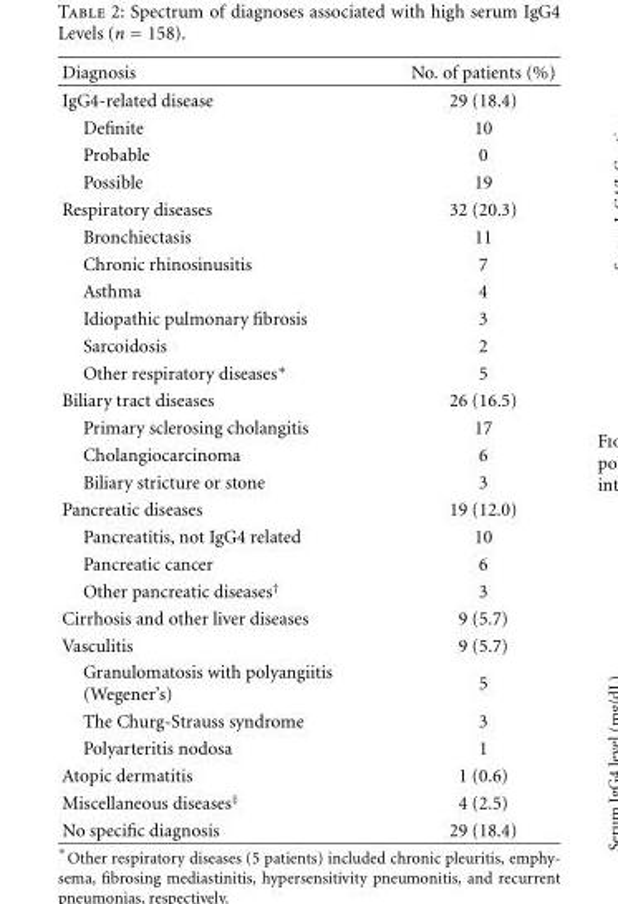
<table><thead><tr><td>Diagnosis</td><td>No. of patients (%)</td></tr></thead><tbody><tr><td>IgG4-related disease</td><td>29 (18.4)</td></tr><tr><td>Definite</td><td>10</td></tr><tr><td>Probable</td><td>0</td></tr><tr><td>Possible</td><td>19</td></tr><tr><td>Respiratory diseases</td><td>32 (20.3)</td></tr><tr><td>Bronchiectasis</td><td>11</td></tr><tr><td>Chronic rhinosinusitis</td><td>7</td></tr><tr><td>Asthma</td><td>4</td></tr><tr><td>Idiopathic pulmonary fibrosis</td><td>3</td></tr><tr><td>Sarcoidosis</td><td>2</td></tr><tr><td>Other respiratory diseases∗</td><td>5</td></tr><tr><td>Biliary tract diseases</td><td>26 (16.5)</td></tr><tr><td>Primary sclerosing cholangitis</td><td>17</td></tr><tr><td>Cholangiocarcinoma</td><td>6</td></tr><tr><td>Biliary stricture or stone</td><td>3</td></tr><tr><td>Pancreatic diseases</td><td>19 (12.0)</td></tr><tr><td>Pancreatitis, not IgG4 related</td><td>10</td></tr><tr><td>Pancreatic cancer</td><td>6</td></tr><tr><td>Other pancreatic diseases<sup>†</sup></td><td>3</td></tr><tr><td>Cirrhosis and other liver diseases</td><td>9 (5.7)</td></tr><tr><td>Vasculitis</td><td>9 (5.7)</td></tr><tr><td>Granulomatosis with polyangiitis (Wegener’s)</td><td>5</td></tr><tr><td>The Churg-Strauss syndrome</td><td>3</td></tr><tr><td>Polyarteritis nodosa</td><td>1</td></tr><tr><td>Atopic dermatitis</td><td>1 (0.6)</td></tr><tr><td>Miscellaneous diseases<sup>‡</sup></td><td>4 (2.5)</td></tr><tr><td>No specific diagnosis</td><td>29 (18.4)</td></tr></tbody></table>